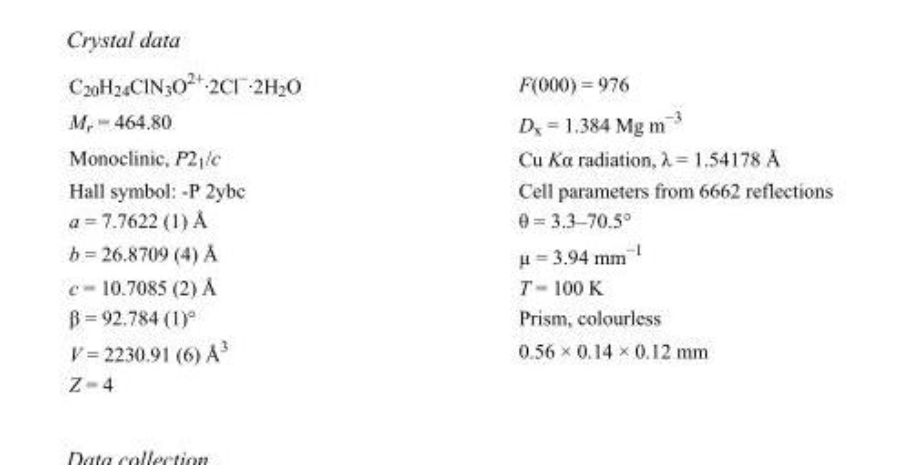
<table><tbody><tr><td>C<sub>20</sub>H<sub>24</sub>ClN<sub>3</sub>O<sup>2+</sup>·2Cl<sup>−</sup>·2H<sub>2</sub>O</td><td>F(000) = 976</td></tr><tr><td>M<sub>r</sub> = 464.80</td><td>D<sub>x</sub> = 1.384 Mg m<sup>−3</sup></td></tr><tr><td>Monoclinic, P2<sub>1</sub>/c</td><td>Cu Kα radiation, λ = 1.54178 Å</td></tr><tr><td>Hall symbol: -P 2ybc</td><td>Cell parameters from 6662 reflections</td></tr><tr><td>a = 7.7622 (1) Å</td><td>θ = 3.3–70.5°</td></tr><tr><td>b = 26.8709 (4) Å</td><td>µ = 3.94 mm<sup>−1</sup></td></tr><tr><td>c = 10.7085 (2) Å</td><td>T = 100 K</td></tr><tr><td>β = 92.784 (1)°</td><td>Prism, colourless</td></tr><tr><td>V = 2230.91 (6) Å<sup>3</sup></td><td>0.56 × 0.14 × 0.12 mm</td></tr><tr><td>Z = 4</td><td></td></tr></tbody></table>